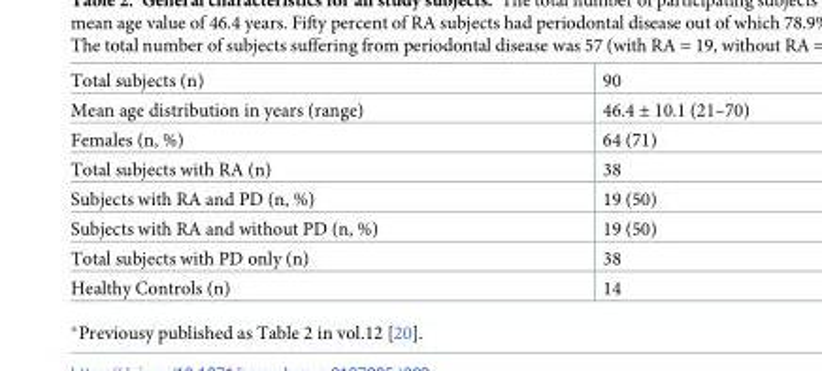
<table><tbody><tr><td>Total subjects (n)</td><td>90</td></tr><tr><td>Mean age distribution in years (range)</td><td>46.4 ± 10.1 (21–70)</td></tr><tr><td>Females (n, %)</td><td>64 (71)</td></tr><tr><td>Total subjects with RA (n)</td><td>38</td></tr><tr><td>Subjects with RA and PD (n, %)</td><td>19 (50)</td></tr><tr><td>Subjects with RA and without PD (n, %)</td><td>19 (50)</td></tr><tr><td>Total subjects with PD only (n)</td><td>38</td></tr><tr><td>Healthy Controls (n)</td><td>14</td></tr></tbody></table>